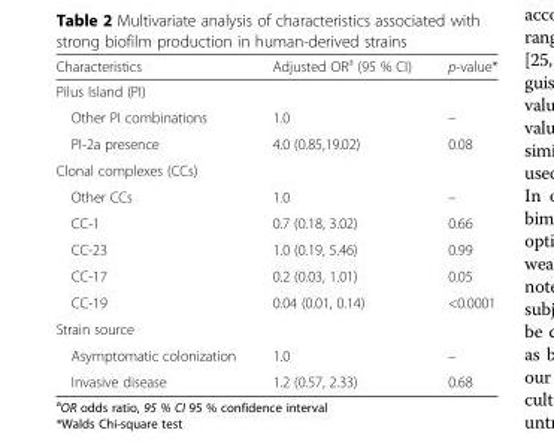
<table><thead><tr><td>Characteristics</td><td>Adjusted OR<sup>a</sup> (95 % CI)</td><td>p-value*</td></tr></thead><tbody><tr><td colspan="3">Pilus Island (PI)</td></tr><tr><td>Other PI combinations</td><td>1.0</td><td>–</td></tr><tr><td>PI-2a presence</td><td>4.0 (0.85,19.02)</td><td>0.08</td></tr><tr><td colspan="3">Clonal complexes (CCs)</td></tr><tr><td>Other CCs</td><td>1.0</td><td>–</td></tr><tr><td>CC-1</td><td>0.7 (0.18, 3.02)</td><td>0.66</td></tr><tr><td>CC-23</td><td>1.0 (0.19, 5.46)</td><td>0.99</td></tr><tr><td>CC-17</td><td>0.2 (0.03, 1.01)</td><td>0.05</td></tr><tr><td>CC-19</td><td>0.04 (0.01, 0.14)</td><td>&lt;0.0001</td></tr><tr><td colspan="3">Strain source</td></tr><tr><td>Asymptomatic colonization</td><td>1.0</td><td>–</td></tr><tr><td>Invasive disease</td><td>1.2 (0.57, 2.33)</td><td>0.68</td></tr></tbody></table>